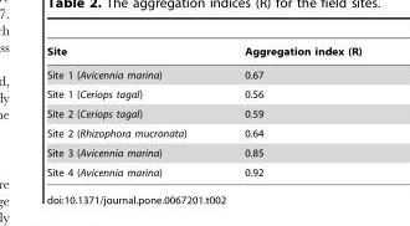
<table><thead><tr><td>Site</td><td>Aggregation index (R)</td></tr></thead><tbody><tr><td>Site 1 (Avicennia marina)</td><td>0.67</td></tr><tr><td>Site 1 (Ceriops tagal)</td><td>0.56</td></tr><tr><td>Site 2 (Ceriops tagal)</td><td>0.59</td></tr><tr><td>Site 2 (Rhizophora mucronata)</td><td>0.64</td></tr><tr><td>Site 3 (Avicennia marina)</td><td>0.85</td></tr><tr><td>Site 4 (Avicennia marina)</td><td>0.92</td></tr></tbody></table>